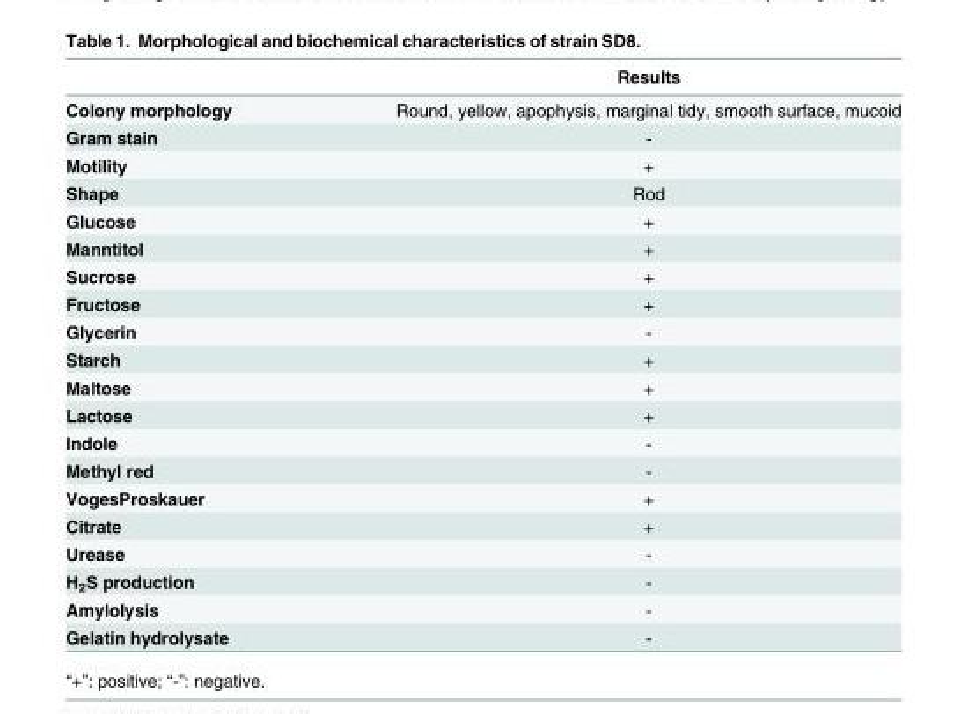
<table><thead><tr><td></td><td>Results</td></tr></thead><tbody><tr><td>Colony morphology</td><td>Round, yellow, apophysis, marginal tidy, smooth surface, mucoid</td></tr><tr><td>Gram stain</td><td>-</td></tr><tr><td>Motility</td><td>+</td></tr><tr><td>Shape</td><td>Rod</td></tr><tr><td>Glucose</td><td>+</td></tr><tr><td>Manntitol</td><td>+</td></tr><tr><td>Sucrose</td><td>+</td></tr><tr><td>Fructose</td><td>+</td></tr><tr><td>Glycerin</td><td>-</td></tr><tr><td>Starch</td><td>+</td></tr><tr><td>Maltose</td><td>+</td></tr><tr><td>Lactose</td><td>+</td></tr><tr><td>Indole</td><td>-</td></tr><tr><td>Methyl red</td><td>-</td></tr><tr><td>VogesProskauer</td><td>+</td></tr><tr><td>Citrate</td><td>+</td></tr><tr><td>Urease</td><td>-</td></tr><tr><td>H<sub>2</sub>S production</td><td>-</td></tr><tr><td>Amylolysis</td><td>-</td></tr><tr><td>Gelatin hydrolysate</td><td>-</td></tr></tbody></table>